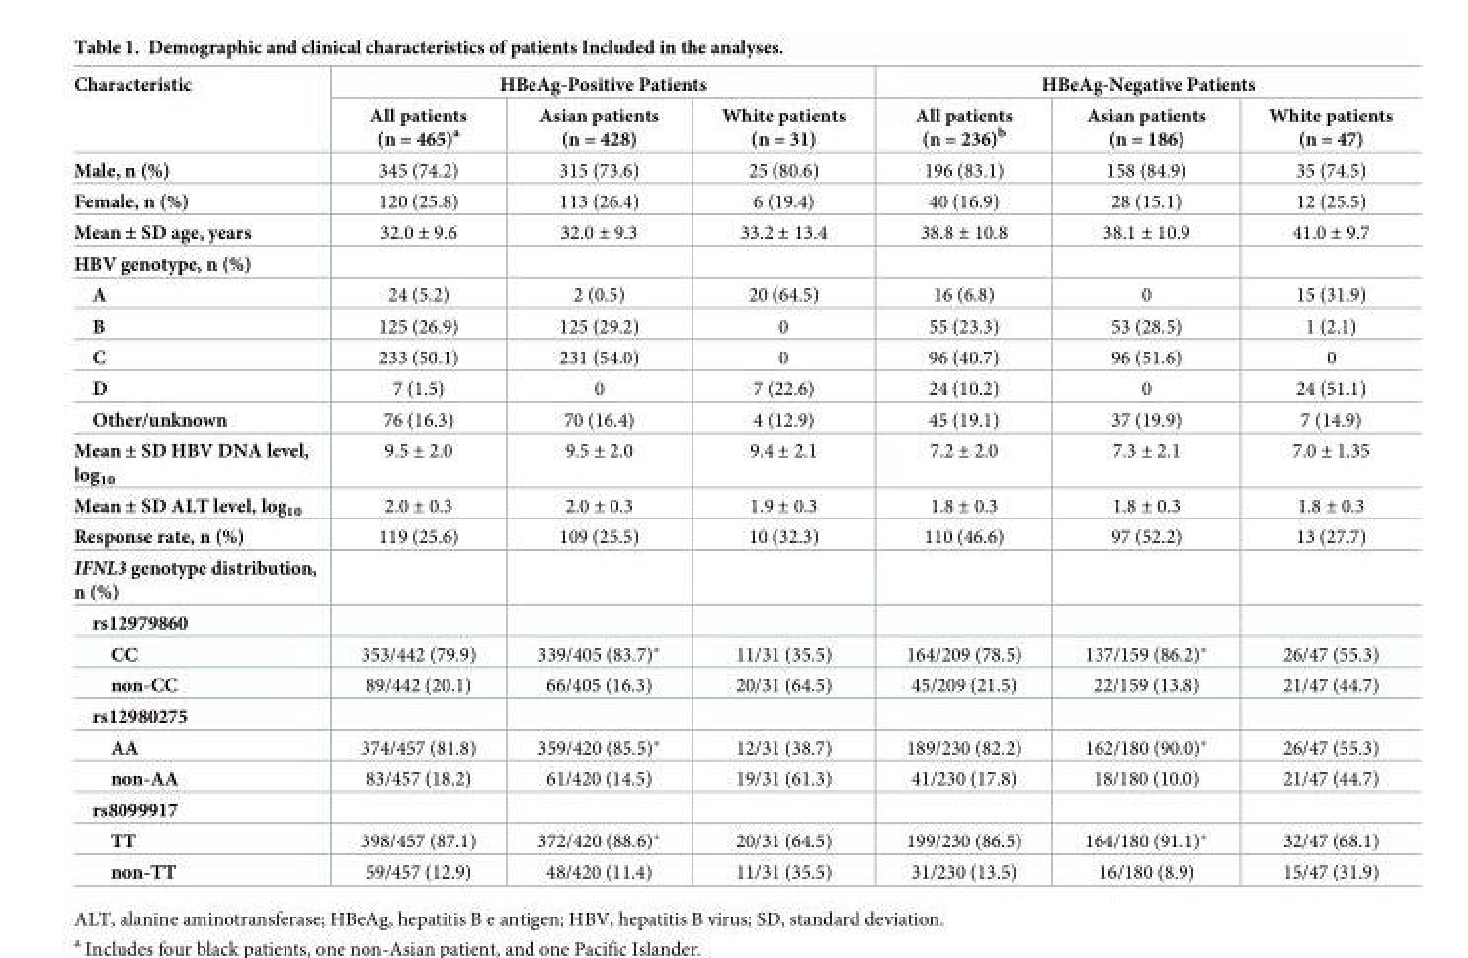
<table><thead><tr><td rowspan="2">Characteristic</td><td colspan="3">HBeAg-Positive Patients</td><td colspan="3">HBeAg-Negative Patients</td></tr><tr><td>All patients (n = 465)<sup>a</sup></td><td>Asian patients (n = 428)</td><td>White patients (n = 31)</td><td>All patients (n = 236)<sup>b</sup></td><td>Asian patients (n = 186)</td><td>White patients (n = 47)</td></tr></thead><tbody><tr><td>Male, n (%)</td><td>345 (74.2)</td><td>315 (73.6)</td><td>25 (80.6)</td><td>196 (83.1)</td><td>158 (84.9)</td><td>35 (74.5)</td></tr><tr><td>Female, n (%)</td><td>120 (25.8)</td><td>113 (26.4)</td><td>6 (19.4)</td><td>40 (16.9)</td><td>28 (15.1)</td><td>12 (25.5)</td></tr><tr><td>Mean ± SD age, years</td><td>32.0 ± 9.6</td><td>32.0 ± 9.3</td><td>33.2 ± 13.4</td><td>38.8 ± 10.8</td><td>38.1 ± 10.9</td><td>41.0 ± 9.7</td></tr><tr><td colspan="7">HBV genotype, n (%)</td></tr><tr><td>A</td><td>24 (5.2)</td><td>2 (0.5)</td><td>20 (64.5)</td><td>16 (6.8)</td><td>0</td><td>15 (31.9)</td></tr><tr><td>B</td><td>125 (26.9)</td><td>125 (29.2)</td><td>0</td><td>55 (23.3)</td><td>53 (28.5)</td><td>1 (2.1)</td></tr><tr><td>C</td><td>233 (50.1)</td><td>231 (54.0)</td><td>0</td><td>96 (40.7)</td><td>96 (51.6)</td><td>0</td></tr><tr><td>D</td><td>7 (1.5)</td><td>0</td><td>7 (22.6)</td><td>24 (10.2)</td><td>0</td><td>24 (51.1)</td></tr><tr><td>Other/unknown</td><td>76 (16.3)</td><td>70 (16.4)</td><td>4 (12.9)</td><td>45 (19.1)</td><td>37 (19.9)</td><td>7 (14.9)</td></tr><tr><td>Mean ± SD HBV DNA level, log<sub>10</sub></td><td>9.5 ± 2.0</td><td>9.5 ± 2.0</td><td>9.4 ± 2.1</td><td>7.2 ± 2.0</td><td>7.3 ± 2.1</td><td>7.0 ± 1.35</td></tr><tr><td>Mean ± SD ALT level, log<sub>10</sub></td><td>2.0 ± 0.3</td><td>2.0 ± 0.3</td><td>1.9 ± 0.3</td><td>1.8 ± 0.3</td><td>1.8 ± 0.3</td><td>1.8 ± 0.3</td></tr><tr><td>Response rate, n (%)</td><td>119 (25.6)</td><td>109 (25.5)</td><td>10 (32.3)</td><td>110 (46.6)</td><td>97 (52.2)</td><td>13 (27.7)</td></tr><tr><td colspan="7">IFNL3 genotype distribution, n (%)</td></tr><tr><td colspan="7">rs12979860</td></tr><tr><td>CC</td><td>353/442 (79.9)</td><td>339/405 (83.7)*</td><td>11/31 (35.5)</td><td>164/209 (78.5)</td><td>137/159 (86.2)*</td><td>26/47 (55.3)</td></tr><tr><td>non-CC</td><td>89/442 (20.1)</td><td>66/405 (16.3)</td><td>20/31 (64.5)</td><td>45/209 (21.5)</td><td>22/159 (13.8)</td><td>21/47 (44.7)</td></tr><tr><td colspan="7">rs12980275</td></tr><tr><td>AA</td><td>374/457 (81.8)</td><td>359/420 (85.5)*</td><td>12/31 (38.7)</td><td>189/230 (82.2)</td><td>162/180 (90.0)*</td><td>26/47 (55.3)</td></tr><tr><td>non-AA</td><td>83/457 (18.2)</td><td>61/420 (14.5)</td><td>19/31 (61.3)</td><td>41/230 (17.8)</td><td>18/180 (10.0)</td><td>21/47 (44.7)</td></tr><tr><td colspan="7">rs8099917</td></tr><tr><td>TT</td><td>398/457 (87.1)</td><td>372/420 (88.6)*</td><td>20/31 (64.5)</td><td>199/230 (86.5)</td><td>164/180 (91.1)*</td><td>32/47 (68.1)</td></tr><tr><td>non-TT</td><td>59/457 (12.9)</td><td>48/420 (11.4)</td><td>11/31 (35.5)</td><td>31/230 (13.5)</td><td>16/180 (8.9)</td><td>15/47 (31.9)</td></tr></tbody></table>